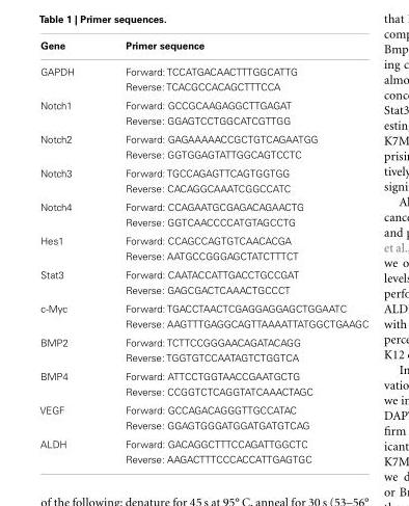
<table><thead><tr><td>Gene</td><td>Primer sequence</td></tr></thead><tbody><tr><td rowspan="2">GAPDH</td><td>Forward: TCCATGACAACTTTGGCATTG</td></tr><tr><td>Reverse: TCACGCCACAGCTTTCCA</td></tr><tr><td rowspan="2">Notch1</td><td>Forward: GCCGCAAGAGGCTTGAGAT</td></tr><tr><td>Reverse: GGAGTCCTGGCATCGTTGG</td></tr><tr><td rowspan="2">Notch2</td><td>Forward: GAGAAAAACCGCTGTCAGAATGG</td></tr><tr><td>Reverse: GGTGGAGTATTGGCAGTCCTC</td></tr><tr><td rowspan="2">Notch3</td><td>Forward: TGCCAGAGTTCAGTGGTGG</td></tr><tr><td>Reverse: CACAGGCAAATCGGCCATC</td></tr><tr><td rowspan="2">Notch4</td><td>Forward: CCAGAATGCGAGACAGAACTG</td></tr><tr><td>Reverse: GGTCAACCCCATGTAGCCTG</td></tr><tr><td rowspan="2">Hes1</td><td>Forward: CCAGCCAGTGTCAACACGA</td></tr><tr><td>Reverse: AATGCCGGGAGCTATCTTTCT</td></tr><tr><td rowspan="2">Stat3</td><td>Forward: CAATACCATTGACCTGCCGAT</td></tr><tr><td>Reverse: GAGCGACTCAAACTGCCCT</td></tr><tr><td rowspan="2">c-Myc</td><td>Forward: TGACCTAACTCGAGGAGGAGCTGGAATC</td></tr><tr><td>Reverse: AAGTTTGAGGCAGTTAAAATTATGGCTGAAGC</td></tr><tr><td rowspan="2">BMP2</td><td>Forward: TCTTCCGGGAACAGATACAGG</td></tr><tr><td>Reverse: TGGTGTCCAATAGTCTGGTCA</td></tr><tr><td rowspan="2">BMP4</td><td>Forward: ATTCCTGGTAACCGAATGCTG</td></tr><tr><td>Reverse: CCGGTCTCAGGTATCAAACTAGC</td></tr><tr><td rowspan="2">VEGF</td><td>Forward: GCCAGACAGGGTTGCCATAC</td></tr><tr><td>Reverse: GGAGTGGGATGGATGATGTCAG</td></tr><tr><td rowspan="2">ALDH</td><td>Forward: GACAGGCTTTCCAGATTGGCTC</td></tr><tr><td>Reverse: AAGACTTTCCCACCATTGAGTGC</td></tr></tbody></table>